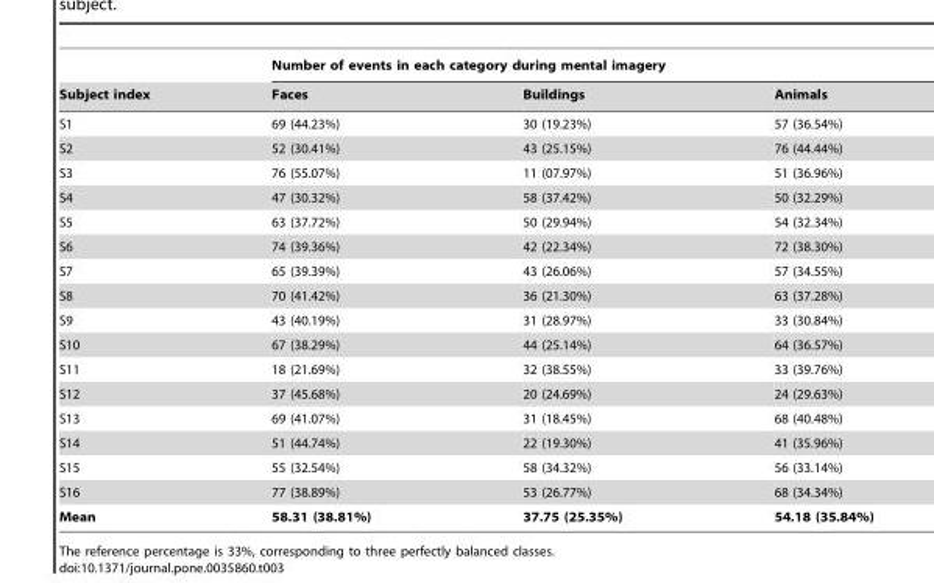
<table><thead><tr><td rowspan="2">Subject index</td><td colspan="3">Number of events in each category during mental imagery</td></tr><tr><td>Faces</td><td>Buildings</td><td>Animals</td></tr></thead><tbody><tr><td>S1</td><td>69 (44.23%)</td><td>30 (19.23%)</td><td>57 (36.54%)</td></tr><tr><td>S2</td><td>52 (30.41%)</td><td>43 (25.15%)</td><td>76 (44.44%)</td></tr><tr><td>S3</td><td>76 (55.07%)</td><td>11 (07.97%)</td><td>51 (36.96%)</td></tr><tr><td>S4</td><td>47 (30.32%)</td><td>58 (37.42%)</td><td>50 (32.29%)</td></tr><tr><td>S5</td><td>63 (37.72%)</td><td>50 (29.94%)</td><td>54 (32.34%)</td></tr><tr><td>S6</td><td>74 (39.36%)</td><td>42 (22.34%)</td><td>72 (38.30%)</td></tr><tr><td>S7</td><td>65 (39.39%)</td><td>43 (26.06%)</td><td>57 (34.55%)</td></tr><tr><td>S8</td><td>70 (41.42%)</td><td>36 (21.30%)</td><td>63 (37.28%)</td></tr><tr><td>S9</td><td>43 (40.19%)</td><td>31 (28.97%)</td><td>33 (30.84%)</td></tr><tr><td>S10</td><td>67 (38.29%)</td><td>44 (25.14%)</td><td>64 (36.57%)</td></tr><tr><td>S11</td><td>18 (21.69%)</td><td>32 (38.55%)</td><td>33 (39.76%)</td></tr><tr><td>S12</td><td>37 (45.68%)</td><td>20 (24.69%)</td><td>24 (29.63%)</td></tr><tr><td>S13</td><td>69 (41.07%)</td><td>31 (18.45%)</td><td>68 (40.48%)</td></tr><tr><td>S14</td><td>51 (44.74%)</td><td>22 (19.30%)</td><td>41 (35.96%)</td></tr><tr><td>S15</td><td>55 (32.54%)</td><td>58 (34.32%)</td><td>56 (33.14%)</td></tr><tr><td>S16</td><td>77 (38.89%)</td><td>53 (26.77%)</td><td>68 (34.34%)</td></tr><tr><td>Mean</td><td>58.31 (38.81%)</td><td>37.75 (25.35%)</td><td>54.18 (35.84%)</td></tr></tbody></table>